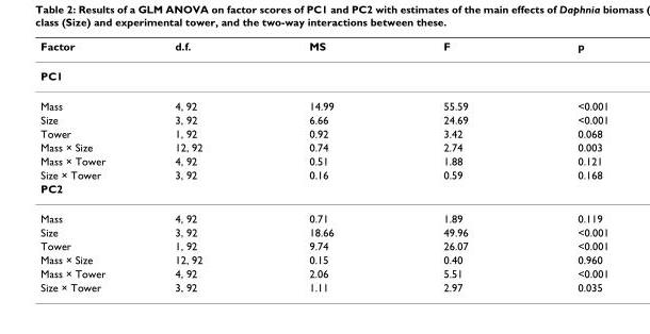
<table><thead><tr><td>Factor</td><td>d.f.</td><td>MS</td><td>F</td><td>p</td></tr></thead><tbody><tr><td colspan="5">PC1</td></tr><tr><td>Mass</td><td>4, 92</td><td>14.99</td><td>55.59</td><td>&lt;0.001</td></tr><tr><td>Size</td><td>3, 92</td><td>6.66</td><td>24.69</td><td>&lt;0.001</td></tr><tr><td>Tower</td><td>1, 92</td><td>0.92</td><td>3.42</td><td>0.068</td></tr><tr><td>Mass × Size</td><td>12, 92</td><td>0.74</td><td>2.74</td><td>0.003</td></tr><tr><td>Mass × Tower</td><td>4, 92</td><td>0.51</td><td>1.88</td><td>0.121</td></tr><tr><td>Size × Tower</td><td>3, 92</td><td>0.16</td><td>0.59</td><td>0.168</td></tr><tr><td colspan="5">PC2</td></tr><tr><td>Mass</td><td>4, 92</td><td>0.71</td><td>1.89</td><td>0.119</td></tr><tr><td>Size</td><td>3, 92</td><td>18.66</td><td>49.96</td><td>&lt;0.001</td></tr><tr><td>Tower</td><td>1, 92</td><td>9.74</td><td>26.07</td><td>&lt;0.001</td></tr><tr><td>Mass × Size</td><td>12, 92</td><td>0.15</td><td>0.40</td><td>0.960</td></tr><tr><td>Mass × Tower</td><td>4, 92</td><td>2.06</td><td>5.51</td><td>&lt;0.001</td></tr><tr><td>Size × Tower</td><td>3, 92</td><td>1.11</td><td>2.97</td><td>0.035</td></tr></tbody></table>